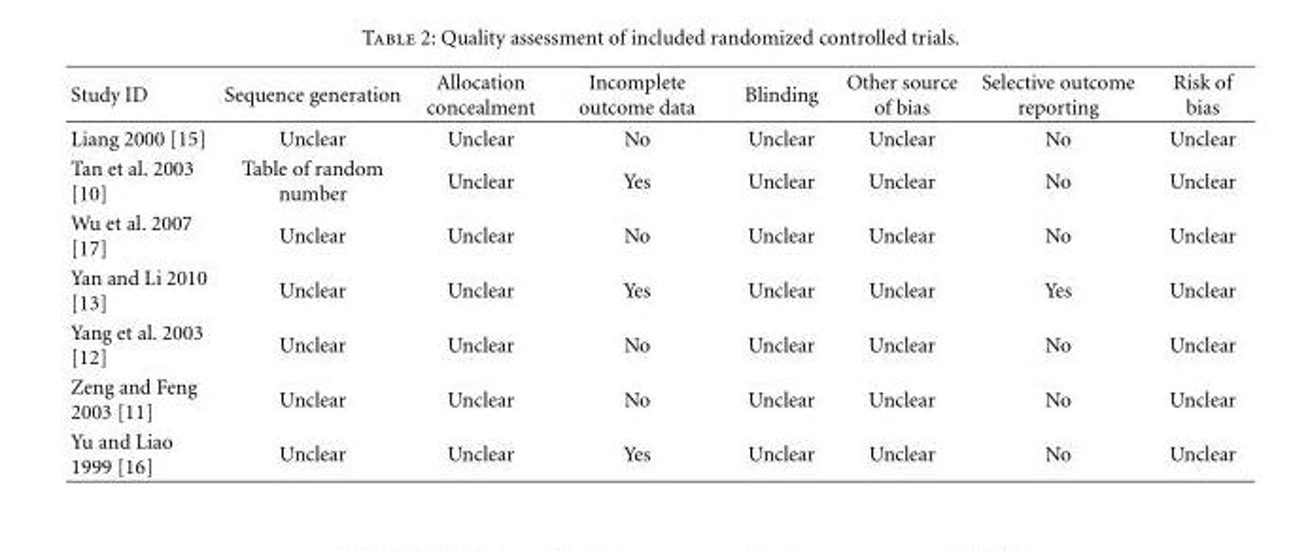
<table><thead><tr><td>Study ID</td><td>Sequence generation</td><td>Allocation concealment</td><td>Incomplete outcome data</td><td>Blinding</td><td>Other source of bias</td><td>Selective outcome reporting</td><td>Risk of bias</td></tr></thead><tbody><tr><td>Liang 2000 [15]</td><td>Unclear</td><td>Unclear</td><td>No</td><td>Unclear</td><td>Unclear</td><td>No</td><td>Unclear</td></tr><tr><td>Tan et al. 2003 [10]</td><td>Table of random number</td><td>Unclear</td><td>Yes</td><td>Unclear</td><td>Unclear</td><td>No</td><td>Unclear</td></tr><tr><td>Wu et al. 2007 [17]</td><td>Unclear</td><td>Unclear</td><td>No</td><td>Unclear</td><td>Unclear</td><td>No</td><td>Unclear</td></tr><tr><td>Yan and Li 2010 [13]</td><td>Unclear</td><td>Unclear</td><td>Yes</td><td>Unclear</td><td>Unclear</td><td>Yes</td><td>Unclear</td></tr><tr><td>Yang et al. 2003 [12]</td><td>Unclear</td><td>Unclear</td><td>No</td><td>Unclear</td><td>Unclear</td><td>No</td><td>Unclear</td></tr><tr><td>Zeng and Feng 2003 [11]</td><td>Unclear</td><td>Unclear</td><td>No</td><td>Unclear</td><td>Unclear</td><td>No</td><td>Unclear</td></tr><tr><td>Yu and Liao 1999 [16]</td><td>Unclear</td><td>Unclear</td><td>Yes</td><td>Unclear</td><td>Unclear</td><td>No</td><td>Unclear</td></tr></tbody></table>